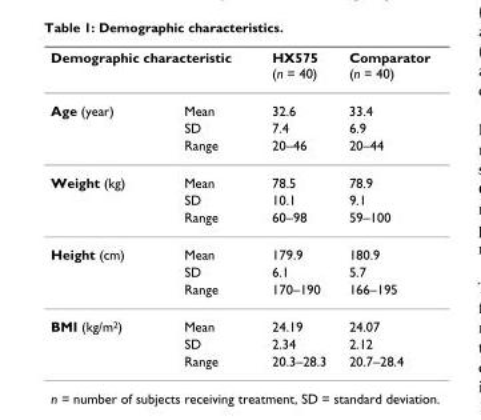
<table><thead><tr><td colspan="2">Demographic characteristic</td><td rowspan="2">HX575 (n = 40) 32.6</td><td rowspan="2">Comparator (n = 40) 33.4</td></tr><tr><td>Age (year)</td><td>Mean</td></tr></thead><tbody><tr><td></td><td>SD</td><td>7.4</td><td>6.9</td></tr><tr><td></td><td>Range</td><td>20–46</td><td>20–44</td></tr><tr><td rowspan="3">Weight (kg)</td><td>Mean</td><td>78.5</td><td>78.9</td></tr><tr><td>SD</td><td>10.1</td><td>9.1</td></tr><tr><td>Range</td><td>60–98</td><td>59–100</td></tr><tr><td rowspan="3">Height (cm)</td><td>Mean</td><td>179.9</td><td>180.9</td></tr><tr><td>SD</td><td>6.1</td><td>5.7</td></tr><tr><td>Range</td><td>170–190</td><td>166–195</td></tr><tr><td rowspan="3">BMI (kg/m<sup>2</sup>)</td><td>Mean</td><td>24.19</td><td>24.07</td></tr><tr><td>SD</td><td>2.34</td><td>2.12</td></tr><tr><td>Range</td><td>20.3–28.3</td><td>20.7–28.4</td></tr></tbody></table>